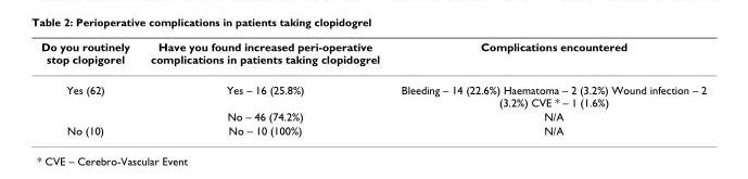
<table><thead><tr><td>Do you routinely stop clopigorel</td><td>Have you found increased peri-operative complications in patients taking clopidogrel</td><td>Complications encountered</td></tr></thead><tbody><tr><td rowspan="2">Yes (62)</td><td>Yes – 16 (25.8%)</td><td>Bleeding – 14 (22.6%) Haematoma – 2 (3.2%) Wound infection – 2 (3.2%) CVE * – 1 (1.6%)</td></tr><tr><td>No – 46 (74.2%)</td><td>N/A</td></tr><tr><td>No (10)</td><td>No – 10 (100%)</td><td>N/A</td></tr></tbody></table>